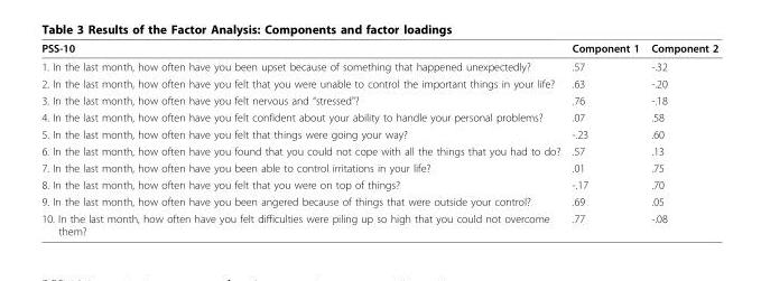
<table><thead><tr><td>PSS-10</td><td>Component 1</td><td>Component 2</td></tr></thead><tbody><tr><td>1. In the last month, how often have you been upset because of something that happened unexpectedly?</td><td>.57</td><td>-.32</td></tr><tr><td>2. In the last month, how often have you felt that you were unable to control the important things in your life?</td><td>.63</td><td>-.20</td></tr><tr><td>3. In the last month, how often have you felt nervous and “stressed&quot;?</td><td>.76</td><td>-.18</td></tr><tr><td>4. In the last month, how often have you felt confident about your ability to handle your personal problems?</td><td>.07</td><td>.58</td></tr><tr><td>5. In the last month, how often have you felt that things were going your way?</td><td>-.23</td><td>.60</td></tr><tr><td>6. In the last month, how often have you found that you could not cope with all the things that you had to do?</td><td>.57</td><td>.13</td></tr><tr><td>7. In the last month, how often have you been able to control irritations in your life?</td><td>.01</td><td>.75</td></tr><tr><td>8. In the last month, how often have you felt that you were on top of things?</td><td>-.17</td><td>.70</td></tr><tr><td>9. In the last month, how often have you been angered because of things that were outside your control?</td><td>.69</td><td>.05</td></tr><tr><td>10. In the last month, how often have you felt difficulties were piling up so high that you could not overcome them?</td><td>.77</td><td>-.08</td></tr></tbody></table>